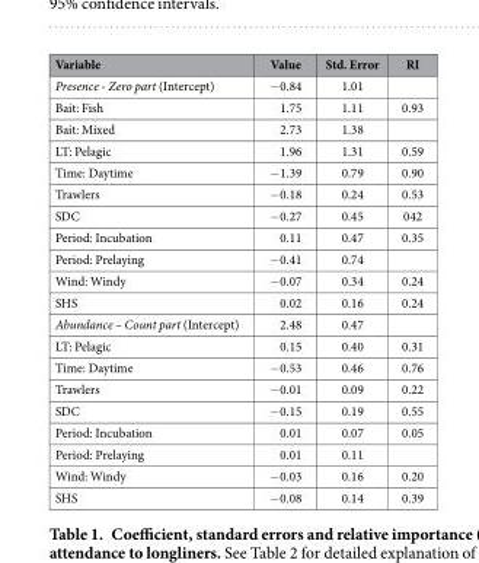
<table><thead><tr><td>Variable</td><td>Value</td><td>Std. Error</td><td>RI</td></tr></thead><tbody><tr><td>Presence - Zero part (Intercept)</td><td>− 0.84</td><td>1.01</td><td></td></tr><tr><td>Bait: Fish</td><td>1.75</td><td>1.11</td><td>0.93</td></tr><tr><td>Bait: Mixed</td><td>2.73</td><td>1.38</td><td></td></tr><tr><td>LT: Pelagic</td><td>1.96</td><td>1.31</td><td>0.59</td></tr><tr><td>Time: Daytime</td><td>− 1.39</td><td>0.79</td><td>0.90</td></tr><tr><td>Trawlers</td><td>− 0.18</td><td>0.24</td><td>0.53</td></tr><tr><td>SDC</td><td>− 0.27</td><td>0.45</td><td>042</td></tr><tr><td>Period: Incubation</td><td>0.11</td><td>0.47</td><td>0.35</td></tr><tr><td>Period: Prelaying</td><td>− 0.41</td><td>0.74</td><td></td></tr><tr><td>Wind: Windy</td><td>− 0.07</td><td>0.34</td><td>0.24</td></tr><tr><td>SHS</td><td>0.02</td><td>0.16</td><td>0.24</td></tr><tr><td>Abundance – Count part (Intercept)</td><td>2.48</td><td>0.47</td><td></td></tr><tr><td>LT: Pelagic</td><td>0.15</td><td>0.40</td><td>0.31</td></tr><tr><td>Time: Daytime</td><td>− 0.53</td><td>0.46</td><td>0.76</td></tr><tr><td>Trawlers</td><td>− 0.01</td><td>0.09</td><td>0.22</td></tr><tr><td>SDC</td><td>− 0.15</td><td>0.19</td><td>0.55</td></tr><tr><td>Period: Incubation</td><td>0.01</td><td>0.07</td><td>0.05</td></tr><tr><td>Period: Prelaying</td><td>0.01</td><td>0.11</td><td></td></tr><tr><td>Wind: Windy</td><td>− 0.03</td><td>0.16</td><td>0.20</td></tr><tr><td>SHS</td><td>− 0.08</td><td>0.14</td><td>0.39</td></tr></tbody></table>